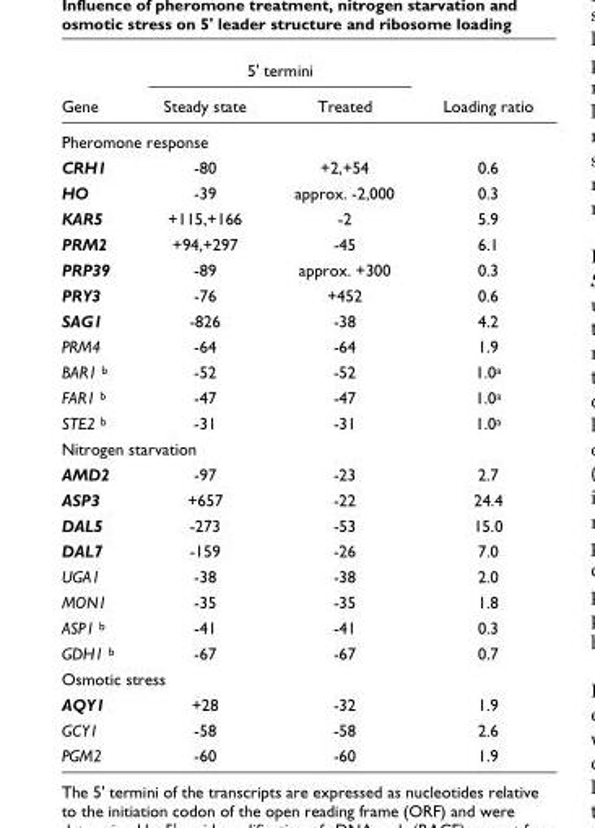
<table><thead><tr><td rowspan="2">Gene</td><td colspan="2">5&#x27; termini</td><td rowspan="2">Loading ratio</td></tr><tr><td>Steady state</td><td>Treated</td></tr></thead><tbody><tr><td colspan="4">Pheromone response</td></tr><tr><td>CRH1</td><td>-80</td><td>+2,+54</td><td>0.6</td></tr><tr><td>HO</td><td>-39</td><td>approx. -2,000</td><td>0.3</td></tr><tr><td>KAR5</td><td>+115,+166</td><td>-2</td><td>5.9</td></tr><tr><td>PRM2</td><td>+94,+297</td><td>-45</td><td>6.1</td></tr><tr><td>PRP39</td><td>-89</td><td>approx. +300</td><td>0.3</td></tr><tr><td>PRY3</td><td>-76</td><td>+452</td><td>0.6</td></tr><tr><td>SAG1</td><td>-826</td><td>-38</td><td>4.2</td></tr><tr><td>PRM4</td><td>-64</td><td>-64</td><td>1.9</td></tr><tr><td>BAR1 b</td><td>-52</td><td>-52</td><td>1.0a</td></tr><tr><td>FAR1 b</td><td>-47</td><td>-47</td><td>1.0a</td></tr><tr><td>STE2 b</td><td>-31</td><td>-31</td><td>1.0a</td></tr><tr><td colspan="4">Nitrogen starvation</td></tr><tr><td>AMD2</td><td>-97</td><td>-23</td><td>2.7</td></tr><tr><td>ASP3</td><td>+657</td><td>-22</td><td>24.4</td></tr><tr><td>DAL5</td><td>-273</td><td>-53</td><td>15.0</td></tr><tr><td>DAL7</td><td>-159</td><td>-26</td><td>7.0</td></tr><tr><td>UGA1</td><td>-38</td><td>-38</td><td>2.0</td></tr><tr><td>MON1</td><td>-35</td><td>-35</td><td>1.8</td></tr><tr><td>ASP1 b</td><td>-41</td><td>-41</td><td>0.3</td></tr><tr><td>GDH1 b</td><td>-67</td><td>-67</td><td>0.7</td></tr><tr><td colspan="4">Osmotic stress</td></tr><tr><td>AQY1</td><td>+28</td><td>-32</td><td>1.9</td></tr><tr><td>GCY1</td><td>-58</td><td>-58</td><td>2.6</td></tr><tr><td>PGM2</td><td>-60</td><td>-60</td><td>1.9</td></tr></tbody></table>